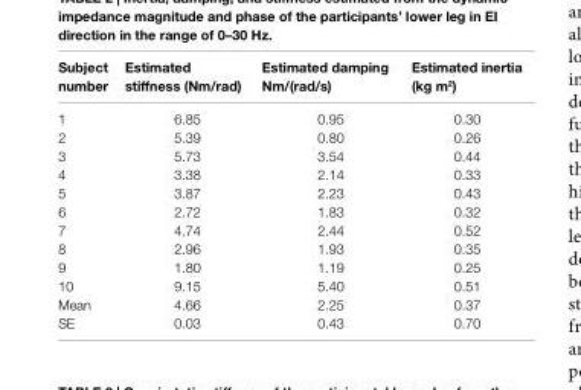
<table><thead><tr><td>subject number</td><td>estimated stiffness (nm/rad)</td><td>estimated damping nm/(rad/s)</td><td>estimated inertia (kg m<sup>2</sup>)</td></tr></thead><tbody><tr><td>1</td><td>6.85</td><td>0.95</td><td>0.30</td></tr><tr><td>2</td><td>5.39</td><td>0.80</td><td>0.26</td></tr><tr><td>3</td><td>5.73</td><td>3.54</td><td>0.44</td></tr><tr><td>4</td><td>3.38</td><td>2.14</td><td>0.33</td></tr><tr><td>5</td><td>3.87</td><td>2.23</td><td>0.43</td></tr><tr><td>6</td><td>2.72</td><td>1.83</td><td>0.32</td></tr><tr><td>7</td><td>4.74</td><td>2.44</td><td>0.52</td></tr><tr><td>8</td><td>2.96</td><td>1.93</td><td>0.35</td></tr><tr><td>9</td><td>1.80</td><td>1.19</td><td>0.25</td></tr><tr><td>10</td><td>9.15</td><td>5.40</td><td>0.51</td></tr><tr><td>Mean</td><td>4.66</td><td>2.25</td><td>0.37</td></tr><tr><td>SE</td><td>0.03</td><td>0.43</td><td>0.70</td></tr></tbody></table>